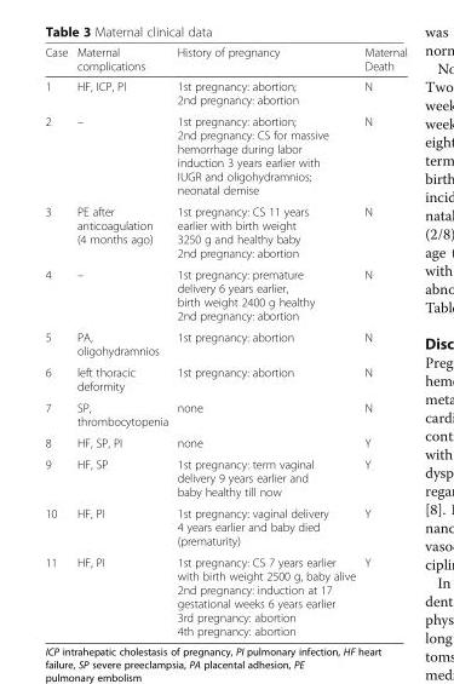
<table><thead><tr><td>Case</td><td>Maternal complications</td><td>History of pregnancy</td><td>Maternal Death</td></tr></thead><tbody><tr><td>1</td><td>HF, ICP, PI</td><td>1st pregnancy: abortion; 2nd pregnancy: abortion</td><td>N</td></tr><tr><td>2</td><td>–</td><td>1st pregnancy: abortion; 2nd pregnancy: CS for massive hemorrhage during labor induction 3 years earlier with IUGR and oligohydramnios; neonatal demise</td><td>N</td></tr><tr><td>3</td><td>PE after anticoagulation (4 months ago)</td><td>1st pregnancy: CS 11 years earlier with birth weight 3250 g and healthy baby 2nd pregnancy: abortion</td><td>N</td></tr><tr><td>4</td><td>–</td><td>1st pregnancy: premature delivery 6 years earlier, birth weight 2400 g healthy 2nd pregnancy: abortion</td><td>N</td></tr><tr><td>5</td><td>PA, oligohydramnios</td><td>1st pregnancy: abortion</td><td>N</td></tr><tr><td>6</td><td>left thoracic deformity</td><td>1st pregnancy: abortion</td><td>N</td></tr><tr><td>7</td><td>SP, thrombocytopenia</td><td>none</td><td>N</td></tr><tr><td>8</td><td>HF, SP, PI</td><td>none</td><td>Y</td></tr><tr><td>9</td><td>HF, SP</td><td>1st pregnancy: term vaginal delivery 9 years earlier and baby healthy till now</td><td>Y</td></tr><tr><td>10</td><td>HF, PI</td><td>1st pregnancy: vaginal delivery 4 years earlier and baby died (prematurity)</td><td>Y</td></tr><tr><td>11</td><td>HF, PI</td><td>1st pregnancy: CS 7 years earlier with birth weight 2500 g, baby alive 2nd pregnancy: induction at 17 gestational weeks 6 years earlier 3rd pregnancy: abortion 4th pregnancy: abortion</td><td>Y</td></tr></tbody></table>